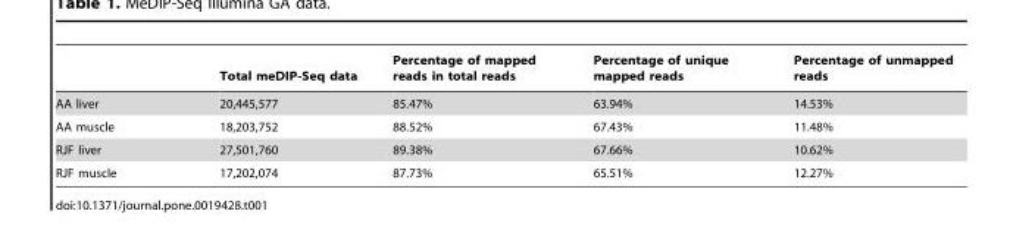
<table><thead><tr><td></td><td>Total meDIP-Seq data</td><td>Percentage of mapped reads in total reads</td><td>Percentage of unique mapped reads</td><td>Percentage of unmapped reads</td></tr></thead><tbody><tr><td>AA liver</td><td>20,445,577</td><td>85.47%</td><td>63.94%</td><td>14.53%</td></tr><tr><td>AA muscle</td><td>18,203,752</td><td>88.52%</td><td>67.43%</td><td>11.48%</td></tr><tr><td>RJF liver</td><td>27,501,760</td><td>89.38%</td><td>67.66%</td><td>10.62%</td></tr><tr><td>RJF muscle</td><td>17,202,074</td><td>87.73%</td><td>65.51%</td><td>12.27%</td></tr></tbody></table>